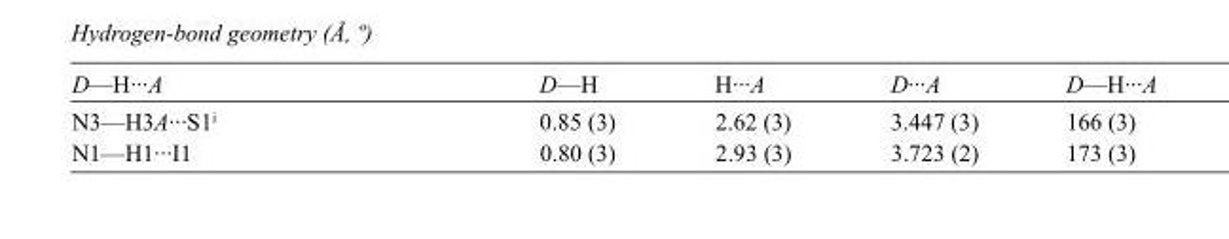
<table><tbody><tr><td>D—H···A</td><td>D—H</td><td>H···A</td><td>D···A</td><td>D—H···A</td></tr><tr><td>N3—H3A···S1<sup>i</sup></td><td>0.85 (3)</td><td>2.62 (3)</td><td>3.447 (3)</td><td>166 (3)</td></tr><tr><td>N1—H1···I1</td><td>0.80 (3)</td><td>2.93 (3)</td><td>3.723 (2)</td><td>173 (3)</td></tr></tbody></table>